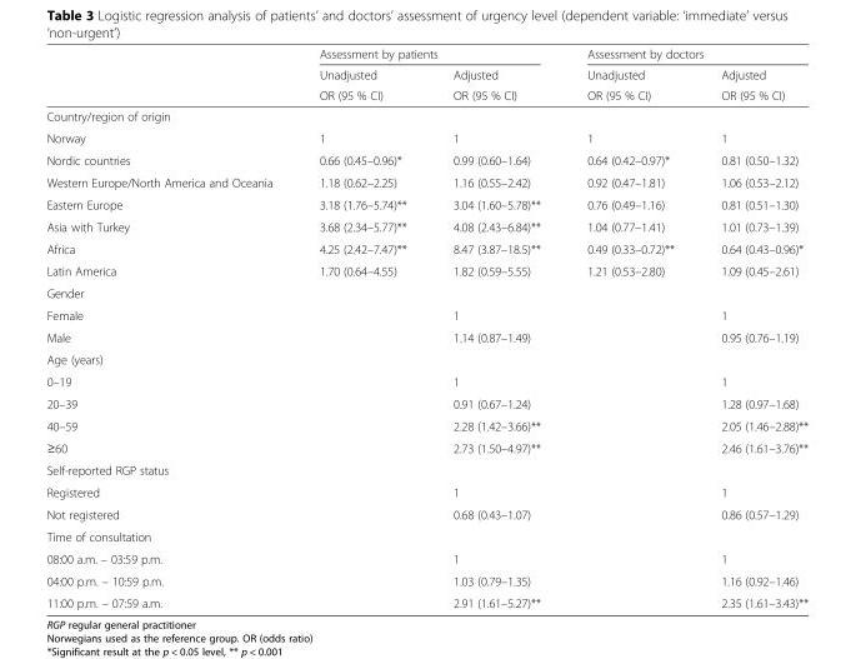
<table><thead><tr><td rowspan="3"></td><td colspan="2">Assessment by patients</td><td colspan="2">Assessment by doctors</td></tr><tr><td rowspan="2">Unadjusted OR (95 % CI)</td><td rowspan="2">Adjusted OR (95 % CI)</td><td rowspan="2">Unadjusted OR (95 % CI)</td><td rowspan="2">Adjusted OR (95 % CI)</td></tr><tr></tr></thead><tbody><tr><td colspan="5">Country/region of origin</td></tr><tr><td>Norway</td><td>1</td><td>1</td><td>1</td><td>1</td></tr><tr><td>Nordic countries</td><td>0.66 (0.45–0.96)*</td><td>0.99 (0.60–1.64)</td><td>0.64 (0.42–0.97)*</td><td>0.81 (0.50–1.32)</td></tr><tr><td>Western Europe/North America and Oceania</td><td>1.18 (0.62–2.25)</td><td>1.16 (0.55–2.42)</td><td>0.92 (0.47–1.81)</td><td>1.06 (0.53–2.12)</td></tr><tr><td>Eastern Europe</td><td>3.18 (1.76–5.74)**</td><td>3.04 (1.60–5.78)**</td><td>0.76 (0.49–1.16)</td><td>0.81 (0.51–1.30)</td></tr><tr><td>Asia with Turkey</td><td>3.68 (2.34–5.77)**</td><td>4.08 (2.43–6.84)**</td><td>1.04 (0.77–1.41)</td><td>1.01 (0.73–1.39)</td></tr><tr><td>Africa</td><td>4.25 (2.42–7.47)**</td><td>8.47 (3.87–18.5)**</td><td>0.49 (0.33–0.72)**</td><td>0.64 (0.43–0.96)*</td></tr><tr><td>Latin America</td><td>1.70 (0.64–4.55)</td><td>1.82 (0.59–5.55)</td><td>1.21 (0.53–2.80)</td><td>1.09 (0.45–2.61)</td></tr><tr><td colspan="5">Gender</td></tr><tr><td>Female</td><td></td><td>1</td><td></td><td>1</td></tr><tr><td>Male</td><td></td><td>1.14 (0.87–1.49)</td><td></td><td>0.95 (0.76–1.19)</td></tr><tr><td colspan="5">Age (years)</td></tr><tr><td>0–19</td><td></td><td>1</td><td></td><td>1</td></tr><tr><td>20–39</td><td></td><td>0.91 (0.67–1.24)</td><td></td><td>1.28 (0.97–1.68)</td></tr><tr><td>40–59</td><td></td><td>2.28 (1.42–3.66)**</td><td></td><td>2.05 (1.46–2.88)**</td></tr><tr><td>≥60</td><td></td><td>2.73 (1.50–4.97)**</td><td></td><td>2.46 (1.61–3.76)**</td></tr><tr><td colspan="5">Self-reported RGP status</td></tr><tr><td>Registered</td><td></td><td>1</td><td></td><td>1</td></tr><tr><td>Not registered</td><td></td><td>0.68 (0.43–1.07)</td><td></td><td>0.86 (0.57–1.29)</td></tr><tr><td colspan="5">Time of consultation</td></tr><tr><td>08:00 a.m. – 03:59 p.m.</td><td></td><td>1</td><td></td><td>1</td></tr><tr><td>04:00 p.m. – 10:59 p.m.</td><td></td><td>1.03 (0.79–1.35)</td><td></td><td>1.16 (0.92–1.46)</td></tr><tr><td>11:00 p.m. – 07:59 a.m.</td><td></td><td>2.91 (1.61–5.27)**</td><td></td><td>2.35 (1.61–3.43)**</td></tr></tbody></table>